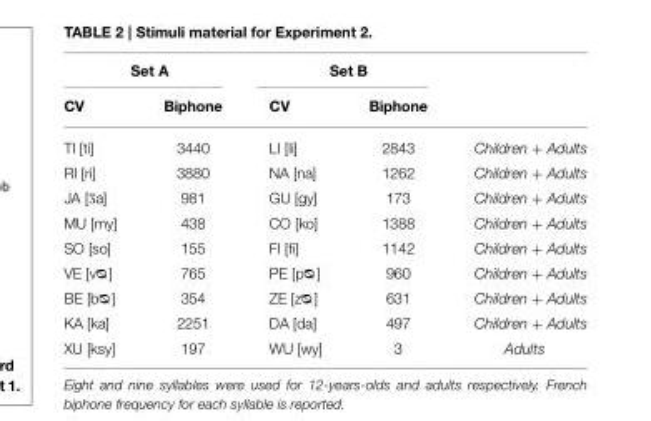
<table><thead><tr><td colspan="2">Set A</td><td colspan="2">Set B</td><td rowspan="2"></td></tr><tr><td>CV</td><td>Biphone</td><td>CV</td><td>Biphone</td></tr></thead><tbody><tr><td>TI [ti]</td><td>3440</td><td>LI [li]</td><td>2843</td><td>Children + Adults</td></tr><tr><td>RI [ri]</td><td>3880</td><td>NA [na]</td><td>1262</td><td>Children + Adults</td></tr><tr><td>JA [ ź a]</td><td>981</td><td>GU [gy]</td><td>173</td><td>Children + Adults</td></tr><tr><td>MU [my]</td><td>438</td><td>CO [ko]</td><td>1388</td><td>Children + Adults</td></tr><tr><td>SO [so]</td><td>155</td><td>FI [fi]</td><td>1142</td><td>Children + Adults</td></tr><tr><td>VE [v ]</td><td>765</td><td>PE [p ]</td><td>960</td><td>Children + Adults</td></tr><tr><td>BE [b ]</td><td>354</td><td>ZE [z ]</td><td>631</td><td>Children + Adults</td></tr><tr><td>KA [ka]</td><td>2251</td><td>DA [da]</td><td>497</td><td>Children + Adults</td></tr><tr><td>XU [ksy]</td><td>197</td><td>WU [wy]</td><td>3</td><td>Adults</td></tr></tbody></table>